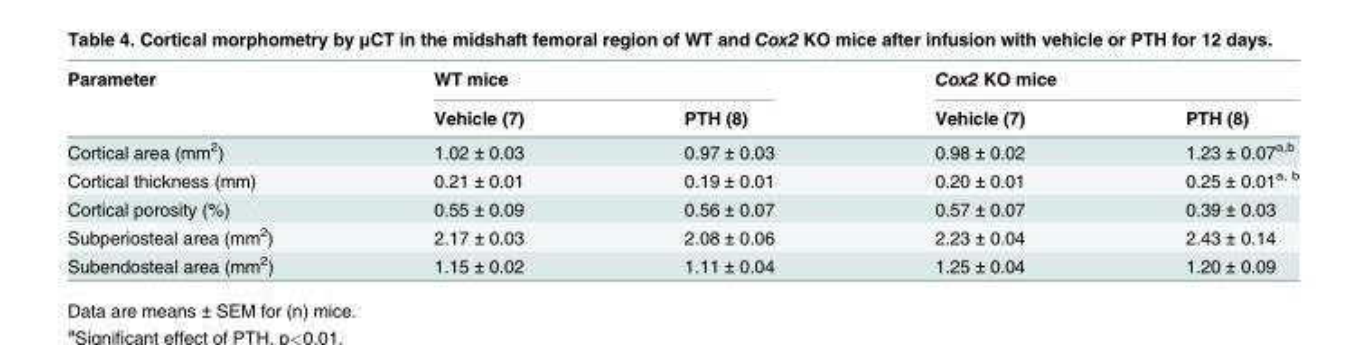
<table><thead><tr><td rowspan="2">Parameter</td><td colspan="2">WT mice</td><td colspan="2">Cox2 KO mice</td></tr><tr><td>Vehicle (7)</td><td>PTH (8)</td><td>Vehicle (7)</td><td>PTH (8)</td></tr></thead><tbody><tr><td>Cortical area (mm<sup>2</sup>)</td><td>1.02 ± 0.03</td><td>0.97 ± 0.03</td><td>0.98 ± 0.02</td><td>1.23 ± 0.07<sup>a,b</sup></td></tr><tr><td>Cortical thickness (mm)</td><td>0.21 ± 0.01</td><td>0.19 ± 0.01</td><td>0.20 ± 0.01</td><td>0.25 ± 0.01<sup>a, b</sup></td></tr><tr><td>Cortical porosity (%)</td><td>0.55 ± 0.09</td><td>0.56 ± 0.07</td><td>0.57 ± 0.07</td><td>0.39 ± 0.03</td></tr><tr><td>Subperiosteal area (mm<sup>2</sup>)</td><td>2.17 ± 0.03</td><td>2.08 ± 0.06</td><td>2.23 ± 0.04</td><td>2.43 ± 0.14</td></tr><tr><td>Subendosteal area (mm<sup>2</sup>)</td><td>1.15 ± 0.02</td><td>1.11 ± 0.04</td><td>1.25 ± 0.04</td><td>1.20 ± 0.09</td></tr></tbody></table>